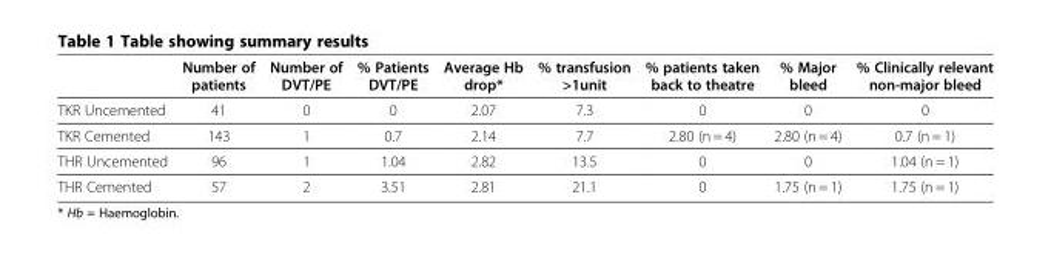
<table><thead><tr><td></td><td>Number of patients</td><td>Number of DVT/PE</td><td>% Patients DVT/PE</td><td>Average Hb drop*</td><td>% transfusion &gt;1unit</td><td>% patients taken back to theatre</td><td>% Major bleed</td><td>% Clinically relevant non-major bleed</td></tr></thead><tbody><tr><td>TKR Uncemented</td><td>41</td><td>0</td><td>0</td><td>2.07</td><td>7.3</td><td>0</td><td>0</td><td>0</td></tr><tr><td>TKR Cemented</td><td>143</td><td>1</td><td>0.7</td><td>2.14</td><td>7.7</td><td>2.80 (n = 4)</td><td>2.80 (n = 4)</td><td>0.7 (n = 1)</td></tr><tr><td>THR Uncemented</td><td>96</td><td>1</td><td>1.04</td><td>2.82</td><td>13.5</td><td>0</td><td>0</td><td>1.04 (n = 1)</td></tr><tr><td>THR Cemented</td><td>57</td><td>2</td><td>3.51</td><td>2.81</td><td>21.1</td><td>0</td><td>1.75 (n = 1)</td><td>1.75 (n = 1)</td></tr></tbody></table>